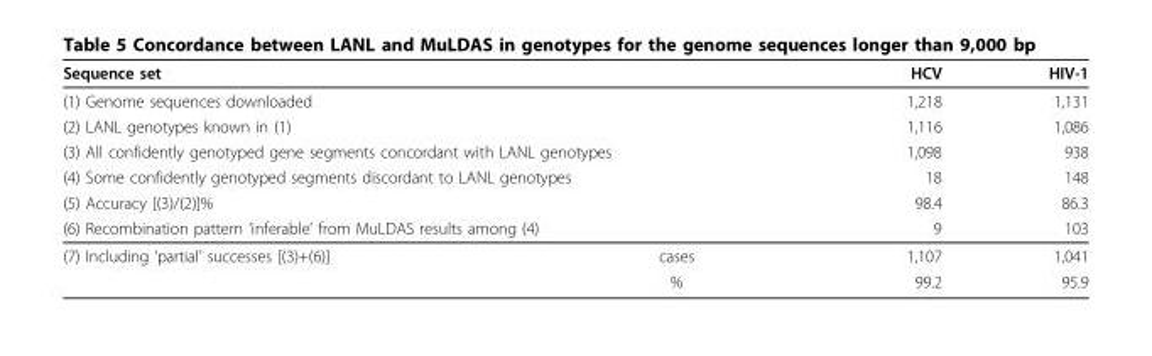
<table><thead><tr><td colspan="2">Sequence set</td><td>HCV</td><td>HIV-1</td></tr></thead><tbody><tr><td colspan="2">(1) Genome sequences downloaded</td><td>1,218</td><td>1,131</td></tr><tr><td colspan="2">(2) LANL genotypes known in (1)</td><td>1,116</td><td>1,086</td></tr><tr><td colspan="2">(3) All confidently genotyped gene segments concordant with LANL genotypes</td><td>1,098</td><td>938</td></tr><tr><td colspan="2">(4) Some confidently genotyped segments discordant to LANL genotypes</td><td>18</td><td>148</td></tr><tr><td colspan="2">(5) Accuracy [(3)/(2)]%</td><td>98.4</td><td>86.3</td></tr><tr><td colspan="2">(6) Recombination pattern ‘inferable’ from MuLDAS results among (4)</td><td>9</td><td>103</td></tr><tr><td rowspan="2">(7) Including ‘partial’ successes [(3)+(6)]</td><td>cases</td><td>1,107</td><td>1,041</td></tr><tr><td>%</td><td>99.2</td><td>95.9</td></tr></tbody></table>